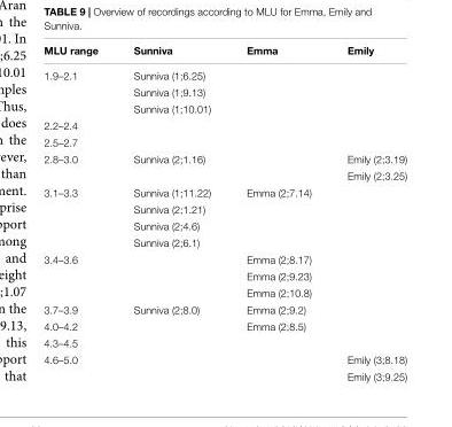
<table><thead><tr><td>MLU range</td><td>Sunniva</td><td>Emma</td><td>Emily</td></tr></thead><tbody><tr><td rowspan="3">1.9–2.1</td><td>Sunniva (1;6.25)</td><td></td><td></td></tr><tr><td>Sunniva (1;9.13)</td><td></td><td></td></tr><tr><td>Sunniva (1;10.01)</td><td></td><td></td></tr><tr><td colspan="4">2.2–2.4</td></tr><tr><td colspan="4">2.5–2.7</td></tr><tr><td rowspan="2">2.8–3.0</td><td>Sunniva (2;1.16)</td><td></td><td>Emily (2;3.19)</td></tr><tr><td></td><td></td><td>Emily (2;3.25)</td></tr><tr><td rowspan="4">3.1–3.3</td><td>Sunniva (1;11.22)</td><td>Emma (2;7.14)</td><td></td></tr><tr><td>Sunniva (2;1.21)</td><td></td><td></td></tr><tr><td>Sunniva (2;4.6)</td><td></td><td></td></tr><tr><td>Sunniva (2;6.1)</td><td></td><td></td></tr><tr><td rowspan="3">3.4–3.6</td><td></td><td>Emma (2;8.17)</td><td></td></tr><tr><td></td><td>Emma (2;9.23)</td><td></td></tr><tr><td></td><td>Emma (2;10.8)</td><td></td></tr><tr><td>3.7–3.9</td><td>Sunniva (2;8.0)</td><td>Emma (2;9.2)</td><td></td></tr><tr><td>4.0–4.2</td><td></td><td>Emma (2;8.5)</td><td></td></tr><tr><td colspan="4">4.3–4.5</td></tr><tr><td rowspan="2">4.6–5.0</td><td></td><td></td><td>Emily (3;8.18)</td></tr><tr><td></td><td></td><td>Emily (3;9.25)</td></tr></tbody></table>